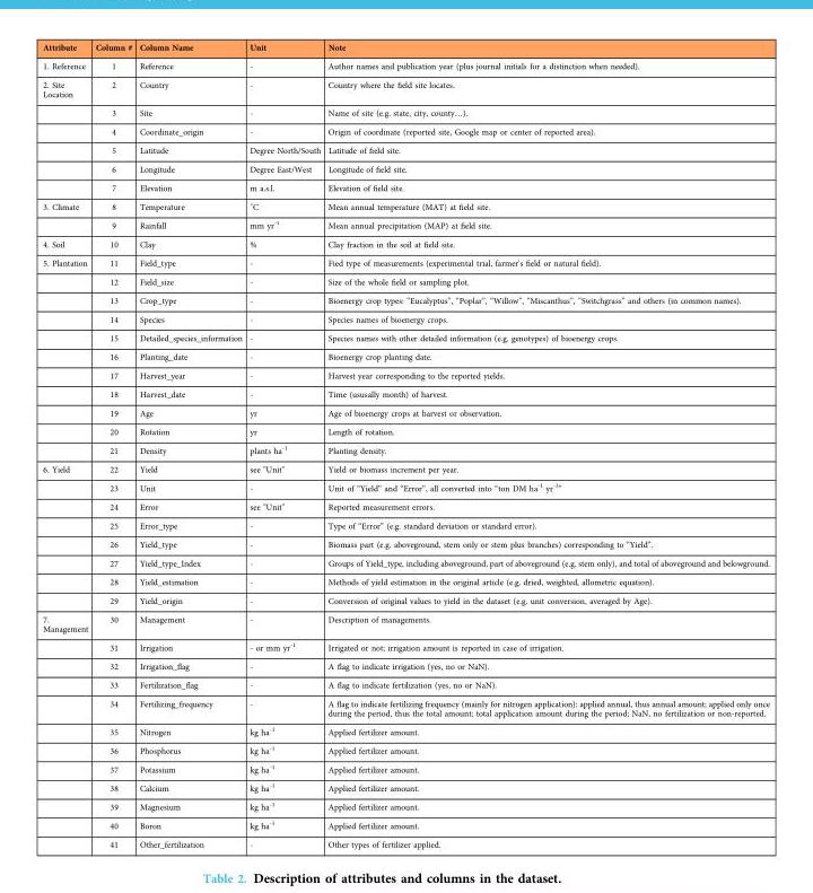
<table><thead><tr><td>Attribute</td><td>Column #</td><td>Column Name</td><td>Unit</td><td>Note</td></tr></thead><tbody><tr><td>1. Reference</td><td>1</td><td>Reference</td><td>-</td><td>Author names and publication year (plus journal initials for a distinction when needed).</td></tr><tr><td rowspan="6">2. Site Location</td><td>2</td><td>Country</td><td>-</td><td>Country where the field site locates.</td></tr><tr><td>3</td><td>Site</td><td>-</td><td>Name of site (e.g. state, city, county…).</td></tr><tr><td>4</td><td>Coordinate_origin</td><td>-</td><td>Origin of coordinate (reported site, Google map or center of reported area).</td></tr><tr><td>5</td><td>Latitude</td><td>Degree North/South</td><td>Latitude of field site.</td></tr><tr><td>6</td><td>Longitude</td><td>Degree East/West</td><td>Longitude of field site.</td></tr><tr><td>7</td><td>Elevation</td><td>m a.s.l.</td><td>Elevation of field site.</td></tr><tr><td rowspan="2">3. Climate</td><td>8</td><td>Temperature</td><td>˚C</td><td>Mean annual temperature (MAT) at field site.</td></tr><tr><td>9</td><td>Rainfall</td><td>mm yr<sup>-1</sup></td><td>Mean annual precipitation (MAP) at field site.</td></tr><tr><td>4. Soil</td><td>10</td><td>Clay</td><td>%</td><td>Clay fraction in the soil at field site.</td></tr><tr><td rowspan="11">5. Plantation</td><td>11</td><td>Field_type</td><td>-</td><td>Fied type of measurements (experimental trial, farmer&#x27;s field or natural field).</td></tr><tr><td>12</td><td>Field_size</td><td>-</td><td>Size of the whole field or sampling plot.</td></tr><tr><td>13</td><td>Crop_type</td><td>-</td><td>Bioenergy crop types: “Eucalyptus”, “Poplar”, “Willow”, “Miscanthus”, “Switchgrass” and others (in common names).</td></tr><tr><td>14</td><td>Species</td><td>-</td><td>Species names of bioenergy crops.</td></tr><tr><td>15</td><td>Detailed_species_information</td><td>-</td><td>Species names with other detailed information (e.g. genotypes) of bioenergy crops.</td></tr><tr><td>16</td><td>Planting_date</td><td>-</td><td>Bioenergy crop planting date.</td></tr><tr><td>17</td><td>Harvest_year</td><td>-</td><td>Harvest year corresponding to the reported yields.</td></tr><tr><td>18</td><td>Harvest_date</td><td>-</td><td>Time (ususally month) of harvest.</td></tr><tr><td>19</td><td>Age</td><td>yr</td><td>Age of bioenergy crops at harvest or observation.</td></tr><tr><td>20</td><td>Rotation</td><td>yr</td><td>Length of rotation.</td></tr><tr><td>21</td><td>Density</td><td>plants ha<sup>-1</sup></td><td>Planting density.</td></tr><tr><td rowspan="8">6. Yield</td><td>22</td><td>Yield</td><td>see &quot;Unit&quot;</td><td>Yield or biomass increment per year.</td></tr><tr><td>23</td><td>Unit</td><td>-</td><td>Unit of “Yield” and “Error”, all converted into “ton DM ha<sup>-1</sup> yr<sup>-1</sup>”</td></tr><tr><td>24</td><td>Error</td><td>see &quot;Unit&quot;</td><td>Reported measurement errors.</td></tr><tr><td>25</td><td>Error_type</td><td>-</td><td>Type of “Error” (e.g. standard deviation or standard error).</td></tr><tr><td>26</td><td>Yield_type</td><td>-</td><td>Biomass part (e.g. aboveground, stem only or stem plus branches) corresponding to “Yield”.</td></tr><tr><td>27</td><td>Yield_type_Index</td><td>-</td><td>Groups of Yield_type, including aboveground, part of aboveground (e.g. stem only), and total of aboveground and belowground.</td></tr><tr><td>28</td><td>Yield_estimation</td><td>-</td><td>Methods of yield estimation in the original article (e.g. dried, weighted, allometric equation).</td></tr><tr><td>29</td><td>Yield_origin</td><td>-</td><td>Conversion of original values to yield in the dataset (e.g. unit conversion, averaged by Age).</td></tr><tr><td rowspan="12">7. Management</td><td>30</td><td>Management</td><td>-</td><td>Description of managements.</td></tr><tr><td>31</td><td>Irrigation</td><td>- or mm yr<sup>-1</sup></td><td>Irrigated or not; irrigation amount is reported in case of irrigation.</td></tr><tr><td>32</td><td>Irrigation_flag</td><td>-</td><td>A flag to indicate irrigation (yes, no or NaN).</td></tr><tr><td>33</td><td>Fertilization_flag</td><td>-</td><td>A flag to indicate fertilization (yes, no or NaN).</td></tr><tr><td>34</td><td>Fertilizing_frequency</td><td>-</td><td>A flag to indicate fertilizing frequency (mainly for nitrogen application): applied annual, thus annual amount; applied only once during the period, thus the total amount; total application amount during the period; NaN, no fertilization or non-reported.</td></tr><tr><td>35</td><td>Nitrogen</td><td>kg ha<sup>-1</sup></td><td>Applied fertilizer amount.</td></tr><tr><td>36</td><td>Phosphorus</td><td>kg ha<sup>-1</sup></td><td>Applied fertilizer amount.</td></tr><tr><td>37</td><td>Potassium</td><td>kg ha<sup>-1</sup></td><td>Applied fertilizer amount.</td></tr><tr><td>38</td><td>Calcium</td><td>kg ha<sup>-1</sup></td><td>Applied fertilizer amount.</td></tr><tr><td>39</td><td>Magnesium</td><td>kg ha<sup>-1</sup></td><td>Applied fertilizer amount.</td></tr><tr><td>40</td><td>Boron</td><td>kg ha<sup>-1</sup></td><td>Applied fertilizer amount.</td></tr><tr><td>41</td><td>Other_fertilization</td><td>-</td><td>Other types of fertilizer applied.</td></tr></tbody></table>